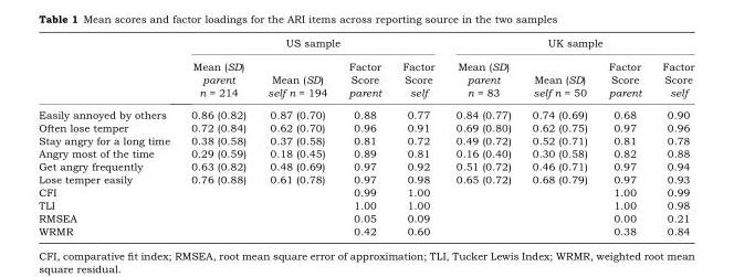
<table><thead><tr><td rowspan="2"></td><td colspan="4">US sample</td><td colspan="4">UK sample</td></tr><tr><td>Mean (SD) parent n = 214</td><td>Mean (SD) self n = 194</td><td>Factor Score parent</td><td>Factor Score self</td><td>Mean (SD) parent n = 83</td><td>Mean (SD) self n = 50</td><td>Factor Score parent</td><td>Factor Score self</td></tr></thead><tbody><tr><td>Easily annoyed by others</td><td>0.86 (0.82)</td><td>0.87 (0.70)</td><td>0.88</td><td>0.77</td><td>0.84 (0.77)</td><td>0.74 (0.69)</td><td>0.68</td><td>0.90</td></tr><tr><td>Often lose temper</td><td>0.72 (0.84)</td><td>0.62 (0.70)</td><td>0.96</td><td>0.91</td><td>0.69 (0.80)</td><td>0.62 (0.75)</td><td>0.97</td><td>0.96</td></tr><tr><td>Stay angry for a long time</td><td>0.38 (0.58)</td><td>0.37 (0.58)</td><td>0.81</td><td>0.72</td><td>0.49 (0.72)</td><td>0.52 (0.71)</td><td>0.81</td><td>0.78</td></tr><tr><td>Angry most of the time</td><td>0.29 (0.59)</td><td>0.18 (0.45)</td><td>0.89</td><td>0.81</td><td>0.16 (0.40)</td><td>0.30 (0.58)</td><td>0.82</td><td>0.88</td></tr><tr><td>Get angry frequently</td><td>0.63 (0.82)</td><td>0.48 (0.69)</td><td>0.97</td><td>0.92</td><td>0.51 (0.72)</td><td>0.46 (0.71)</td><td>0.97</td><td>0.94</td></tr><tr><td>Lose temper easily</td><td>0.76 (0.88)</td><td>0.61 (0.78)</td><td>0.97</td><td>0.98</td><td>0.65 (0.72)</td><td>0.68 (0.79)</td><td>0.97</td><td>0.93</td></tr><tr><td>CFI</td><td></td><td></td><td>0.99</td><td>1.00</td><td></td><td></td><td>1.00</td><td>0.99</td></tr><tr><td>TLI</td><td></td><td></td><td>1.00</td><td>1.00</td><td></td><td></td><td>1.00</td><td>0.98</td></tr><tr><td>RMSEA</td><td></td><td></td><td>0.05</td><td>0.09</td><td></td><td></td><td>0.00</td><td>0.21</td></tr><tr><td>WRMR</td><td></td><td></td><td>0.42</td><td>0.60</td><td></td><td></td><td>0.38</td><td>0.84</td></tr></tbody></table>